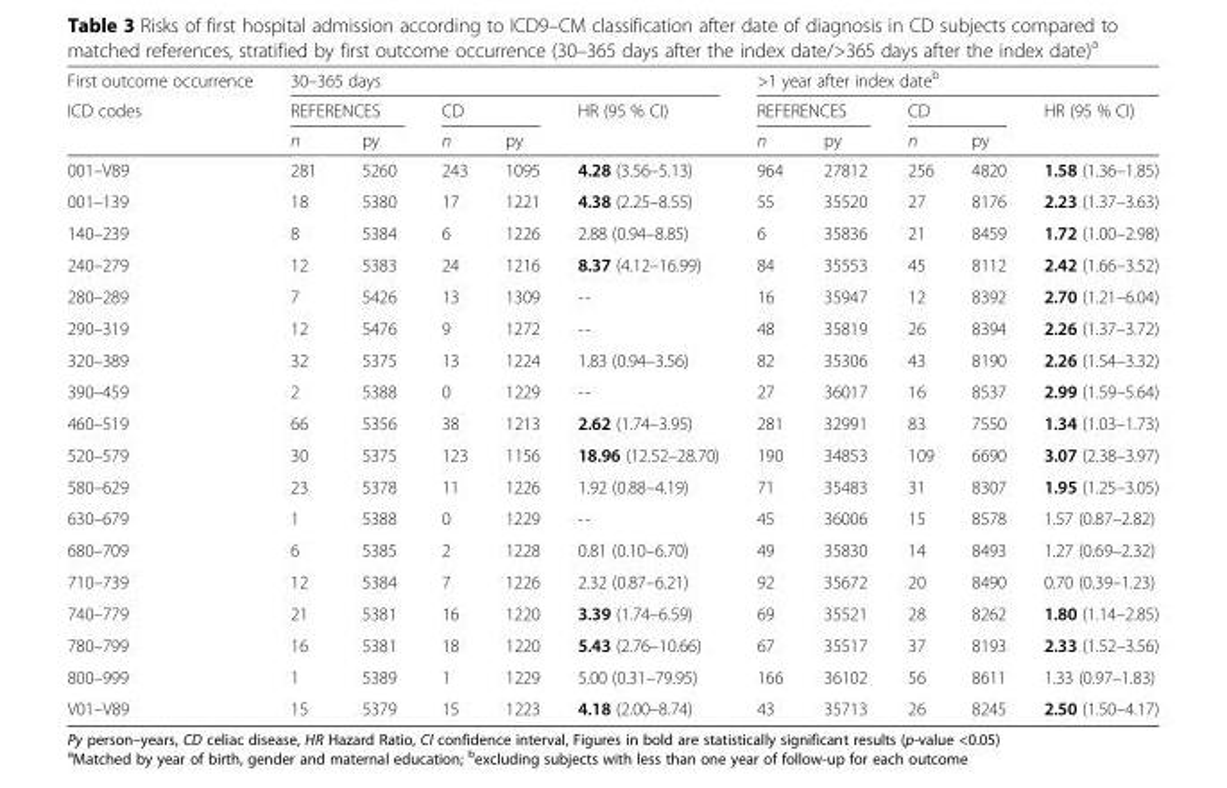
<table><thead><tr><td rowspan="3">First outcome occurrence ICD codes</td><td colspan="5">30–365 days</td><td colspan="5">&gt;1 year after index date<sup>b</sup></td></tr><tr><td colspan="2">REFERENCES</td><td colspan="2">CD</td><td rowspan="2">HR (95 % CI)</td><td colspan="2">REFERENCES</td><td colspan="2">CD</td><td rowspan="2">HR (95 % CI)</td></tr><tr><td>n</td><td>py</td><td>n</td><td>py</td><td>n</td><td>py</td><td>n</td><td>py</td></tr></thead><tbody><tr><td>001–V89</td><td>281</td><td>5260</td><td>243</td><td>1095</td><td>4.28 (3.56–5.13)</td><td>964</td><td>27812</td><td>256</td><td>4820</td><td>1.58 (1.36–1.85)</td></tr><tr><td>001–139</td><td>18</td><td>5380</td><td>17</td><td>1221</td><td>4.38 (2.25–8.55)</td><td>55</td><td>35520</td><td>27</td><td>8176</td><td>2.23 (1.37–3.63)</td></tr><tr><td>140–239</td><td>8</td><td>5384</td><td>6</td><td>1226</td><td>2.88 (0.94–8.85)</td><td>6</td><td>35836</td><td>21</td><td>8459</td><td>1.72 (1.00–2.98)</td></tr><tr><td>240–279</td><td>12</td><td>5383</td><td>24</td><td>1216</td><td>8.37 (4.12–16.99)</td><td>84</td><td>35553</td><td>45</td><td>8112</td><td>2.42 (1.66–3.52)</td></tr><tr><td>280–289</td><td>7</td><td>5426</td><td>13</td><td>1309</td><td>--</td><td>16</td><td>35947</td><td>12</td><td>8392</td><td>2.70 (1.21–6.04)</td></tr><tr><td>290–319</td><td>12</td><td>5476</td><td>9</td><td>1272</td><td>--</td><td>48</td><td>35819</td><td>26</td><td>8394</td><td>2.26 (1.37–3.72)</td></tr><tr><td>320–389</td><td>32</td><td>5375</td><td>13</td><td>1224</td><td>1.83 (0.94–3.56)</td><td>82</td><td>35306</td><td>43</td><td>8190</td><td>2.26 (1.54–3.32)</td></tr><tr><td>390–459</td><td>2</td><td>5388</td><td>0</td><td>1229</td><td>--</td><td>27</td><td>36017</td><td>16</td><td>8537</td><td>2.99 (1.59–5.64)</td></tr><tr><td>460–519</td><td>66</td><td>5356</td><td>38</td><td>1213</td><td>2.62 (1.74–3.95)</td><td>281</td><td>32991</td><td>83</td><td>7550</td><td>1.34 (1.03–1.73)</td></tr><tr><td>520–579</td><td>30</td><td>5375</td><td>123</td><td>1156</td><td>18.96 (12.52–28.70)</td><td>190</td><td>34853</td><td>109</td><td>6690</td><td>3.07 (2.38–3.97)</td></tr><tr><td>580–629</td><td>23</td><td>5378</td><td>11</td><td>1226</td><td>1.92 (0.88–4.19)</td><td>71</td><td>35483</td><td>31</td><td>8307</td><td>1.95 (1.25–3.05)</td></tr><tr><td>630–679</td><td>1</td><td>5388</td><td>0</td><td>1229</td><td>--</td><td>45</td><td>36006</td><td>15</td><td>8578</td><td>1.57 (0.87–2.82)</td></tr><tr><td>680–709</td><td>6</td><td>5385</td><td>2</td><td>1228</td><td>0.81 (0.10–6.70)</td><td>49</td><td>35830</td><td>14</td><td>8493</td><td>1.27 (0.69–2.32)</td></tr><tr><td>710–739</td><td>12</td><td>5384</td><td>7</td><td>1226</td><td>2.32 (0.87–6.21)</td><td>92</td><td>35672</td><td>20</td><td>8490</td><td>0.70 (0.39–1.23)</td></tr><tr><td>740–779</td><td>21</td><td>5381</td><td>16</td><td>1220</td><td>3.39 (1.74–6.59)</td><td>69</td><td>35521</td><td>28</td><td>8262</td><td>1.80 (1.14–2.85)</td></tr><tr><td>780–799</td><td>16</td><td>5381</td><td>18</td><td>1220</td><td>5.43 (2.76–10.66)</td><td>67</td><td>35517</td><td>37</td><td>8193</td><td>2.33 (1.52–3.56)</td></tr><tr><td>800–999</td><td>1</td><td>5389</td><td>1</td><td>1229</td><td>5.00 (0.31–79.95)</td><td>166</td><td>36102</td><td>56</td><td>8611</td><td>1.33 (0.97–1.83)</td></tr><tr><td>V01–V89</td><td>15</td><td>5379</td><td>15</td><td>1223</td><td>4.18 (2.00–8.74)</td><td>43</td><td>35713</td><td>26</td><td>8245</td><td>2.50 (1.50–4.17)</td></tr></tbody></table>